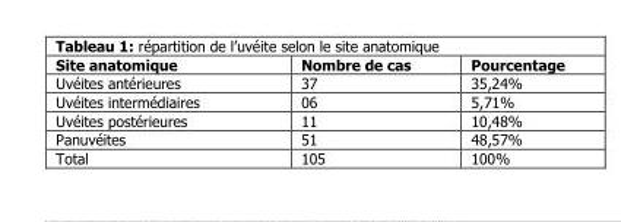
<table><thead><tr><td>Site anatomique</td><td>Nombre de cas</td><td>Pourcentage</td></tr></thead><tbody><tr><td>Uvéites antérieures</td><td>37</td><td>35,24%</td></tr><tr><td>Uvéites intermédiaires</td><td>06</td><td>5,71%</td></tr><tr><td>Uvéites postérieures</td><td>11</td><td>10,48%</td></tr><tr><td>Panuvéites</td><td>51</td><td>48,57%</td></tr><tr><td>Total</td><td>105</td><td>100%</td></tr></tbody></table>